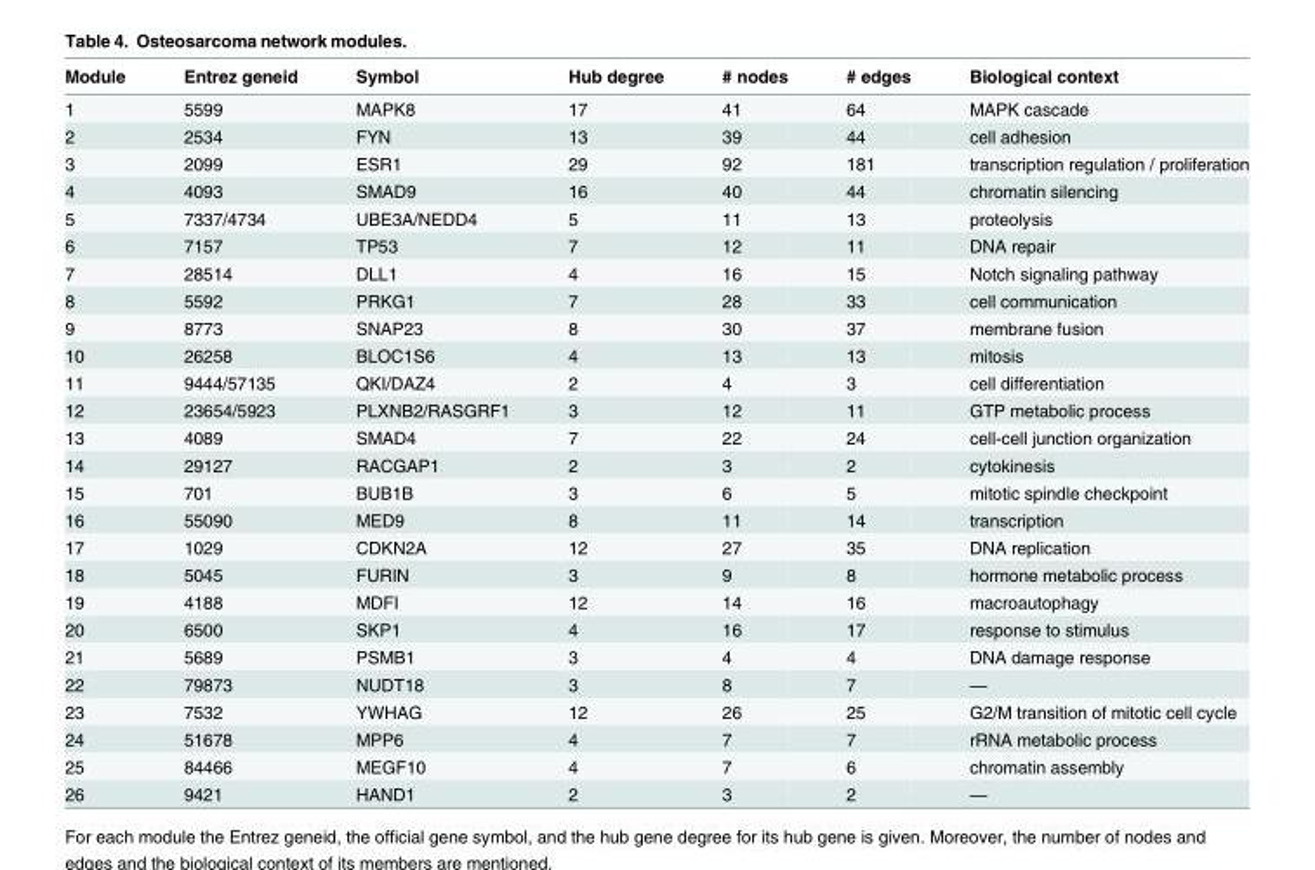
<table><thead><tr><td>Module</td><td>Entrez geneid</td><td>Symbol</td><td>Hub degree</td><td># nodes</td><td># edges</td><td>Biological context</td></tr></thead><tbody><tr><td>1</td><td>5599</td><td>MAPK8</td><td>17</td><td>41</td><td>64</td><td>MAPK cascade</td></tr><tr><td>2</td><td>2534</td><td>FYN</td><td>13</td><td>39</td><td>44</td><td>cell adhesion</td></tr><tr><td>3</td><td>2099</td><td>ESR1</td><td>29</td><td>92</td><td>181</td><td>transcription regulation / proliferation</td></tr><tr><td>4</td><td>4093</td><td>SMAD9</td><td>16</td><td>40</td><td>44</td><td>chromatin silencing</td></tr><tr><td>5</td><td>7337/4734</td><td>UBE3A/NEDD4</td><td>5</td><td>11</td><td>13</td><td>proteolysis</td></tr><tr><td>6</td><td>7157</td><td>TP53</td><td>7</td><td>12</td><td>11</td><td>DNA repair</td></tr><tr><td>7</td><td>28514</td><td>DLL1</td><td>4</td><td>16</td><td>15</td><td>Notch signaling pathway</td></tr><tr><td>8</td><td>5592</td><td>PRKG1</td><td>7</td><td>28</td><td>33</td><td>cell communication</td></tr><tr><td>9</td><td>8773</td><td>SNAP23</td><td>8</td><td>30</td><td>37</td><td>membrane fusion</td></tr><tr><td>10</td><td>26258</td><td>BLOC1S6</td><td>4</td><td>13</td><td>13</td><td>mitosis</td></tr><tr><td>11</td><td>9444/57135</td><td>QKI/DAZ4</td><td>2</td><td>4</td><td>3</td><td>cell differentiation</td></tr><tr><td>12</td><td>23654/5923</td><td>PLXNB2/RASGRF1</td><td>3</td><td>12</td><td>11</td><td>GTP metabolic process</td></tr><tr><td>13</td><td>4089</td><td>SMAD4</td><td>7</td><td>22</td><td>24</td><td>cell-cell junction organization</td></tr><tr><td>14</td><td>29127</td><td>RACGAP1</td><td>2</td><td>3</td><td>2</td><td>cytokinesis</td></tr><tr><td>15</td><td>701</td><td>BUB1B</td><td>3</td><td>6</td><td>5</td><td>mitotic spindle checkpoint</td></tr><tr><td>16</td><td>55090</td><td>MED9</td><td>8</td><td>11</td><td>14</td><td>transcription</td></tr><tr><td>17</td><td>1029</td><td>CDKN2A</td><td>12</td><td>27</td><td>35</td><td>DNA replication</td></tr><tr><td>18</td><td>5045</td><td>FURIN</td><td>3</td><td>9</td><td>8</td><td>hormone metabolic process</td></tr><tr><td>19</td><td>4188</td><td>MDFI</td><td>12</td><td>14</td><td>16</td><td>macroautophagy</td></tr><tr><td>20</td><td>6500</td><td>SKP1</td><td>4</td><td>16</td><td>17</td><td>response to stimulus</td></tr><tr><td>21</td><td>5689</td><td>PSMB1</td><td>3</td><td>4</td><td>4</td><td>DNA damage response</td></tr><tr><td>22</td><td>79873</td><td>NUDT18</td><td>3</td><td>8</td><td>7</td><td>—</td></tr><tr><td>23</td><td>7532</td><td>YWHAG</td><td>12</td><td>26</td><td>25</td><td>G2/M transition of mitotic cell cycle</td></tr><tr><td>24</td><td>51678</td><td>MPP6</td><td>4</td><td>7</td><td>7</td><td>rRNA metabolic process</td></tr><tr><td>25</td><td>84466</td><td>MEGF10</td><td>4</td><td>7</td><td>6</td><td>chromatin assembly</td></tr><tr><td>26</td><td>9421</td><td>HAND1</td><td>2</td><td>3</td><td>2</td><td>—</td></tr></tbody></table>